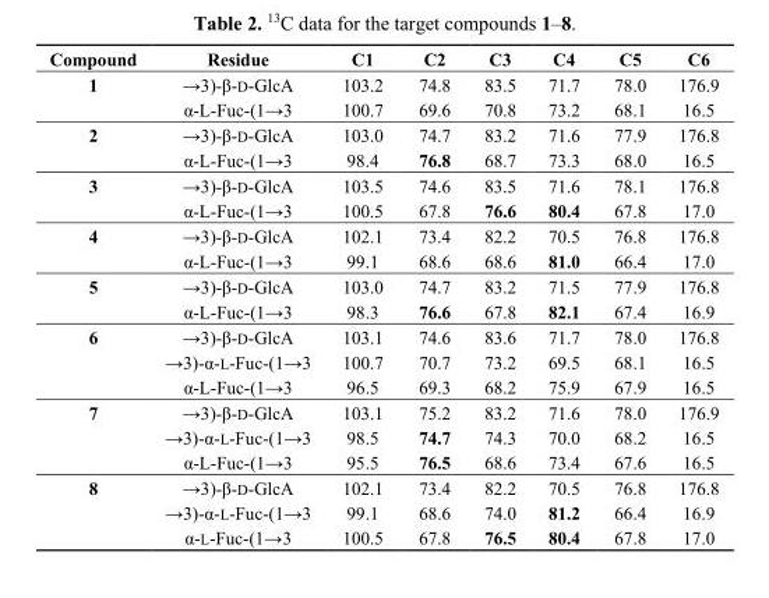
<table><thead><tr><td>Compound</td><td>Residue</td><td>C1</td><td>C2</td><td>C3</td><td>C4</td><td>C5</td><td>C6</td></tr></thead><tbody><tr><td rowspan="2">1</td><td>→3)-β-D-GlcA</td><td>103.2</td><td>74.8</td><td>83.5</td><td>71.7</td><td>78.0</td><td>176.9</td></tr><tr><td>α-L-Fuc-(1→3</td><td>100.7</td><td>69.6</td><td>70.8</td><td>73.2</td><td>68.1</td><td>16.5</td></tr><tr><td rowspan="2">2</td><td>→3)-β-D-GlcA</td><td>103.0</td><td>74.7</td><td>83.2</td><td>71.6</td><td>77.9</td><td>176.8</td></tr><tr><td>α-L-Fuc-(1→3</td><td>98.4</td><td>76.8</td><td>68.7</td><td>73.3</td><td>68.0</td><td>16.5</td></tr><tr><td rowspan="2">3</td><td>→3)-β-D-GlcA</td><td>103.5</td><td>74.6</td><td>83.5</td><td>71.6</td><td>78.1</td><td>176.8</td></tr><tr><td>α-L-Fuc-(1→3</td><td>100.5</td><td>67.8</td><td>76.6</td><td>80.4</td><td>67.8</td><td>17.0</td></tr><tr><td rowspan="2">4</td><td>→3)-β-D-GlcA</td><td>102.1</td><td>73.4</td><td>82.2</td><td>70.5</td><td>76.8</td><td>176.8</td></tr><tr><td>α-L-Fuc-(1→3</td><td>99.1</td><td>68.6</td><td>68.6</td><td>81.0</td><td>66.4</td><td>17.0</td></tr><tr><td rowspan="2">5</td><td>→3)-β-D-GlcA</td><td>103.0</td><td>74.7</td><td>83.2</td><td>71.5</td><td>77.9</td><td>176.8</td></tr><tr><td>α-L-Fuc-(1→3</td><td>98.3</td><td>76.6</td><td>67.8</td><td>82.1</td><td>67.4</td><td>16.9</td></tr><tr><td rowspan="3">6</td><td>→3)-β-D-GlcA</td><td>103.1</td><td>74.6</td><td>83.6</td><td>71.7</td><td>78.0</td><td>176.8</td></tr><tr><td>→3)-α-L-Fuc-(1→3</td><td>100.7</td><td>70.7</td><td>73.2</td><td>69.5</td><td>68.1</td><td>16.5</td></tr><tr><td>α-L-Fuc-(1→3</td><td>96.5</td><td>69.3</td><td>68.2</td><td>75.9</td><td>67.9</td><td>16.5</td></tr><tr><td rowspan="3">7</td><td>→3)-β-D-GlcA</td><td>103.1</td><td>75.2</td><td>83.2</td><td>71.6</td><td>78.0</td><td>176.9</td></tr><tr><td>→3)-α-L-Fuc-(1→3</td><td>98.5</td><td>74.7</td><td>74.3</td><td>70.0</td><td>68.2</td><td>16.5</td></tr><tr><td>α-L-Fuc-(1→3</td><td>95.5</td><td>76.5</td><td>68.6</td><td>73.4</td><td>67.6</td><td>16.5</td></tr><tr><td rowspan="3">8</td><td>→3)-β-D-GlcA</td><td>102.1</td><td>73.4</td><td>82.2</td><td>70.5</td><td>76.8</td><td>176.8</td></tr><tr><td>→3)-α-L-Fuc-(1→3</td><td>99.1</td><td>68.6</td><td>74.0</td><td>81.2</td><td>66.4</td><td>16.9</td></tr><tr><td>α-L-Fuc-(1→3</td><td>100.5</td><td>67.8</td><td>76.5</td><td>80.4</td><td>67.8</td><td>17.0</td></tr></tbody></table>